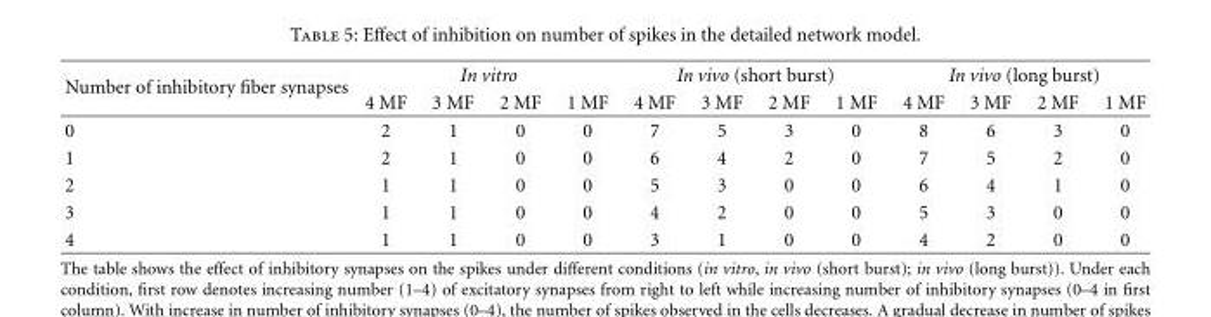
<table><thead><tr><td rowspan="2">Number of inhibitory fiber synapses</td><td colspan="4">In vitro</td><td colspan="4">In vivo (short burst)</td><td colspan="4">In vivo (long burst)</td></tr><tr><td>4 MF</td><td>3 MF</td><td>2 MF</td><td>1 MF</td><td>4 MF</td><td>3 MF</td><td>2 MF</td><td>1 MF</td><td>4 MF</td><td>3 MF</td><td>2 MF</td><td>1 MF</td></tr></thead><tbody><tr><td>0</td><td>2</td><td>1</td><td>0</td><td>0</td><td>7</td><td>5</td><td>3</td><td>0</td><td>8</td><td>6</td><td>3</td><td>0</td></tr><tr><td>1</td><td>2</td><td>1</td><td>0</td><td>0</td><td>6</td><td>4</td><td>2</td><td>0</td><td>7</td><td>5</td><td>2</td><td>0</td></tr><tr><td>2</td><td>1</td><td>1</td><td>0</td><td>0</td><td>5</td><td>3</td><td>0</td><td>0</td><td>6</td><td>4</td><td>1</td><td>0</td></tr><tr><td>3</td><td>1</td><td>1</td><td>0</td><td>0</td><td>4</td><td>2</td><td>0</td><td>0</td><td>5</td><td>3</td><td>0</td><td>0</td></tr><tr><td>4</td><td>1</td><td>1</td><td>0</td><td>0</td><td>3</td><td>1</td><td>0</td><td>0</td><td>4</td><td>2</td><td>0</td><td>0</td></tr></tbody></table>